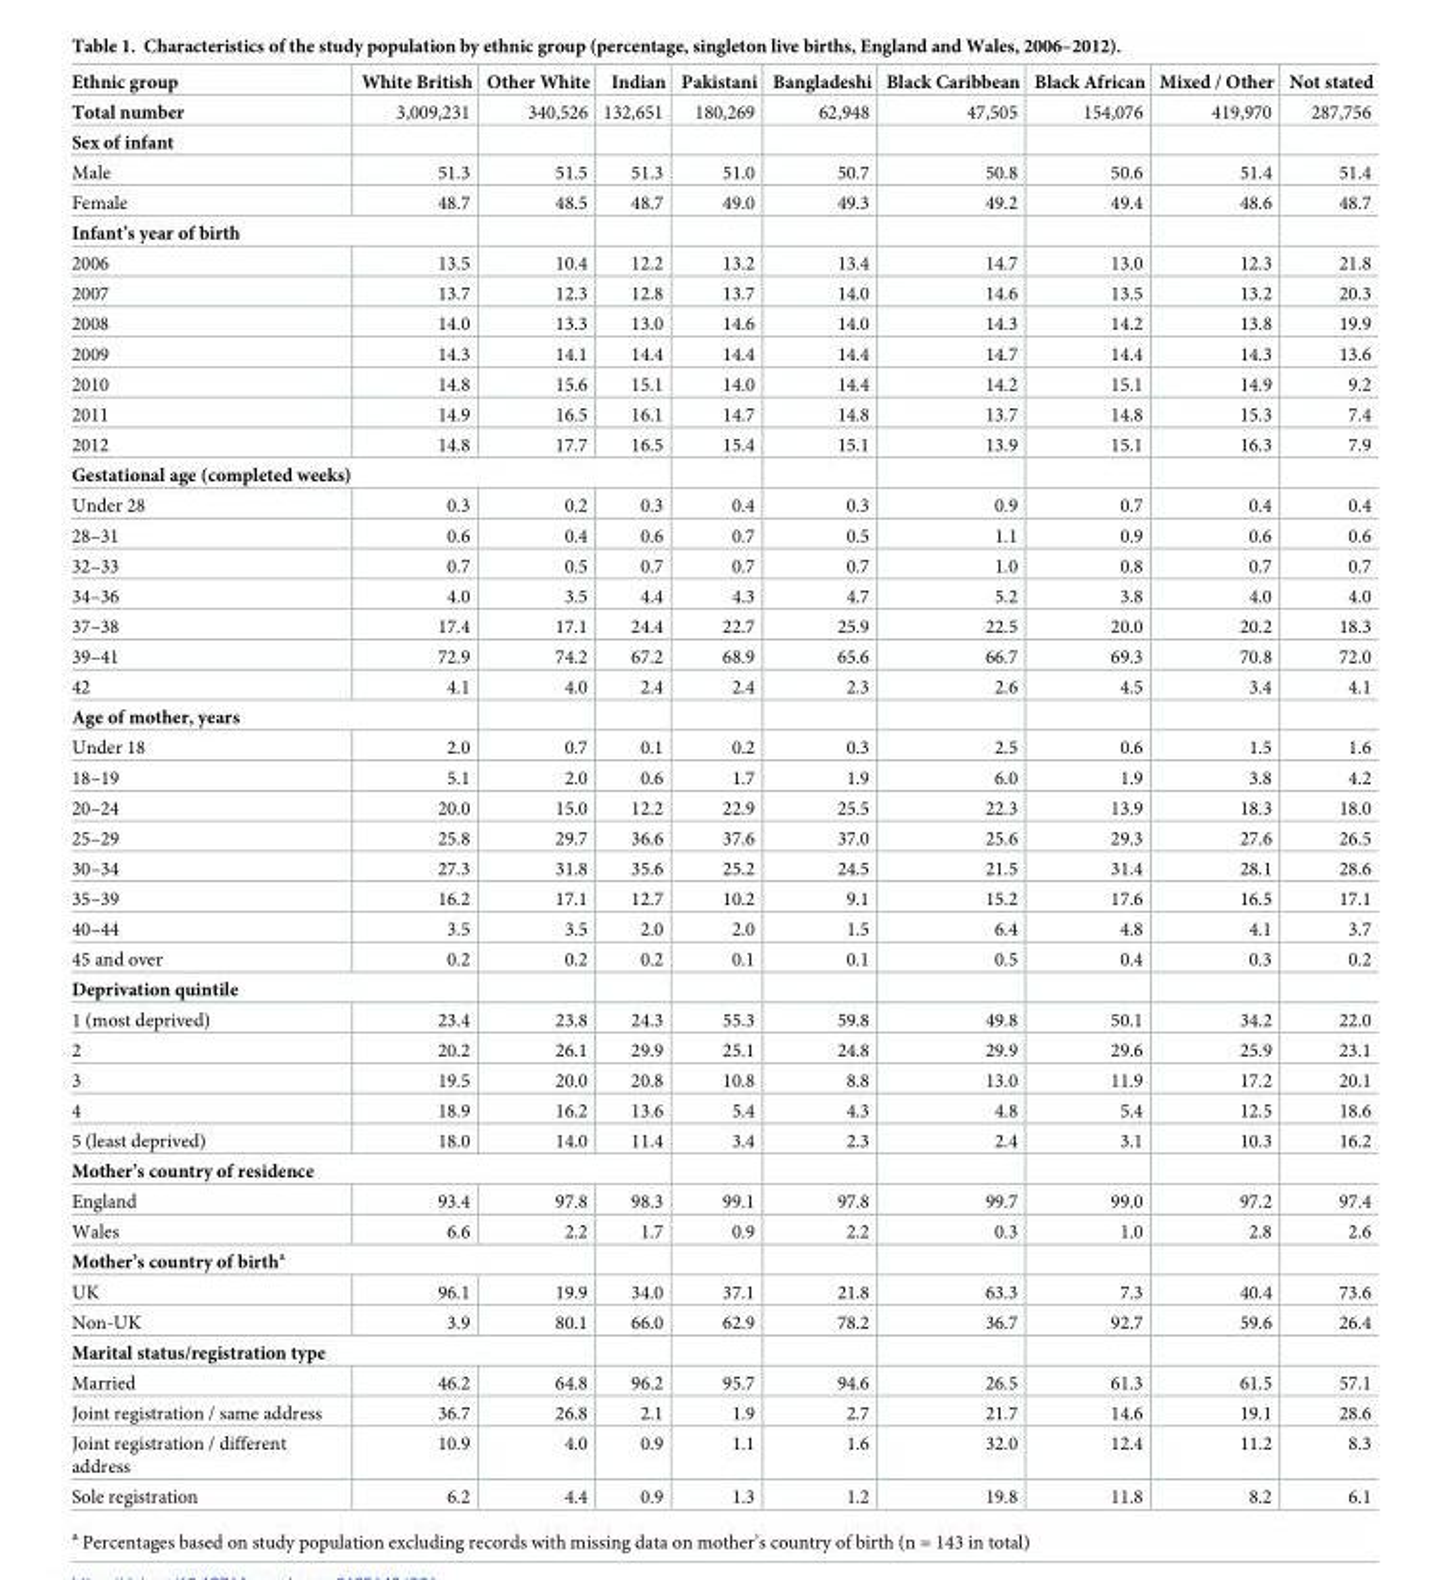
<table><thead><tr><td>Ethnic group</td><td>White British</td><td>Other White</td><td>Indian</td><td>Pakistani</td><td>Bangladeshi</td><td>Black Caribbean</td><td>Black African</td><td>Mixed / Other</td><td>Not stated</td></tr></thead><tbody><tr><td>Total number</td><td>3,009,231</td><td>340,526</td><td>132,651</td><td>180,269</td><td>62,948</td><td>47,505</td><td>154,076</td><td>419,970</td><td>287,756</td></tr><tr><td colspan="10">Sex of infant</td></tr><tr><td>Male</td><td>51.3</td><td>51.5</td><td>51.3</td><td>51.0</td><td>50.7</td><td>50.8</td><td>50.6</td><td>51.4</td><td>51.4</td></tr><tr><td>Female</td><td>48.7</td><td>48.5</td><td>48.7</td><td>49.0</td><td>49.3</td><td>49.2</td><td>49.4</td><td>48.6</td><td>48.7</td></tr><tr><td colspan="10">Infant’s year of birth</td></tr><tr><td>2006</td><td>13.5</td><td>10.4</td><td>12.2</td><td>13.2</td><td>13.4</td><td>14.7</td><td>13.0</td><td>12.3</td><td>21.8</td></tr><tr><td>2007</td><td>13.7</td><td>12.3</td><td>12.8</td><td>13.7</td><td>14.0</td><td>14.6</td><td>13.5</td><td>13.2</td><td>20.3</td></tr><tr><td>2008</td><td>14.0</td><td>13.3</td><td>13.0</td><td>14.6</td><td>14.0</td><td>14.3</td><td>14.2</td><td>13.8</td><td>19.9</td></tr><tr><td>2009</td><td>14.3</td><td>14.1</td><td>14.4</td><td>14.4</td><td>14.4</td><td>14.7</td><td>14.4</td><td>14.3</td><td>13.6</td></tr><tr><td>2010</td><td>14.8</td><td>15.6</td><td>15.1</td><td>14.0</td><td>14.4</td><td>14.2</td><td>15.1</td><td>14.9</td><td>9.2</td></tr><tr><td>2011</td><td>14.9</td><td>16.5</td><td>16.1</td><td>14.7</td><td>14.8</td><td>13.7</td><td>14.8</td><td>15.3</td><td>7.4</td></tr><tr><td>2012</td><td>14.8</td><td>17.7</td><td>16.5</td><td>15.4</td><td>15.1</td><td>13.9</td><td>15.1</td><td>16.3</td><td>7.9</td></tr><tr><td colspan="10">Gestational age (completed weeks)</td></tr><tr><td>Under 28</td><td>0.3</td><td>0.2</td><td>0.3</td><td>0.4</td><td>0.3</td><td>0.9</td><td>0.7</td><td>0.4</td><td>0.4</td></tr><tr><td>28–31</td><td>0.6</td><td>0.4</td><td>0.6</td><td>0.7</td><td>0.5</td><td>1.1</td><td>0.9</td><td>0.6</td><td>0.6</td></tr><tr><td>32–33</td><td>0.7</td><td>0.5</td><td>0.7</td><td>0.7</td><td>0.7</td><td>1.0</td><td>0.8</td><td>0.7</td><td>0.7</td></tr><tr><td>34–36</td><td>4.0</td><td>3.5</td><td>4.4</td><td>4.3</td><td>4.7</td><td>5.2</td><td>3.8</td><td>4.0</td><td>4.0</td></tr><tr><td>37–38</td><td>17.4</td><td>17.1</td><td>24.4</td><td>22.7</td><td>25.9</td><td>22.5</td><td>20.0</td><td>20.2</td><td>18.3</td></tr><tr><td>39–41</td><td>72.9</td><td>74.2</td><td>67.2</td><td>68.9</td><td>65.6</td><td>66.7</td><td>69.3</td><td>70.8</td><td>72.0</td></tr><tr><td>42</td><td>4.1</td><td>4.0</td><td>2.4</td><td>2.4</td><td>2.3</td><td>2.6</td><td>4.5</td><td>3.4</td><td>4.1</td></tr><tr><td colspan="10">Age of mother, years</td></tr><tr><td>Under 18</td><td>2.0</td><td>0.7</td><td>0.1</td><td>0.2</td><td>0.3</td><td>2.5</td><td>0.6</td><td>1.5</td><td>1.6</td></tr><tr><td>18–19</td><td>5.1</td><td>2.0</td><td>0.6</td><td>1.7</td><td>1.9</td><td>6.0</td><td>1.9</td><td>3.8</td><td>4.2</td></tr><tr><td>20–24</td><td>20.0</td><td>15.0</td><td>12.2</td><td>22.9</td><td>25.5</td><td>22.3</td><td>13.9</td><td>18.3</td><td>18.0</td></tr><tr><td>25–29</td><td>25.8</td><td>29.7</td><td>36.6</td><td>37.6</td><td>37.0</td><td>25.6</td><td>29.3</td><td>27.6</td><td>26.5</td></tr><tr><td>30–34</td><td>27.3</td><td>31.8</td><td>35.6</td><td>25.2</td><td>24.5</td><td>21.5</td><td>31.4</td><td>28.1</td><td>28.6</td></tr><tr><td>35–39</td><td>16.2</td><td>17.1</td><td>12.7</td><td>10.2</td><td>9.1</td><td>15.2</td><td>17.6</td><td>16.5</td><td>17.1</td></tr><tr><td>40–44</td><td>3.5</td><td>3.5</td><td>2.0</td><td>2.0</td><td>1.5</td><td>6.4</td><td>4.8</td><td>4.1</td><td>3.7</td></tr><tr><td>45 and over</td><td>0.2</td><td>0.2</td><td>0.2</td><td>0.1</td><td>0.1</td><td>0.5</td><td>0.4</td><td>0.3</td><td>0.2</td></tr><tr><td colspan="10">Deprivation quintile</td></tr><tr><td>1 (most deprived)</td><td>23.4</td><td>23.8</td><td>24.3</td><td>55.3</td><td>59.8</td><td>49.8</td><td>50.1</td><td>34.2</td><td>22.0</td></tr><tr><td>2</td><td>20.2</td><td>26.1</td><td>29.9</td><td>25.1</td><td>24.8</td><td>29.9</td><td>29.6</td><td>25.9</td><td>23.1</td></tr><tr><td>3</td><td>19.5</td><td>20.0</td><td>20.8</td><td>10.8</td><td>8.8</td><td>13.0</td><td>11.9</td><td>17.2</td><td>20.1</td></tr><tr><td>4</td><td>18.9</td><td>16.2</td><td>13.6</td><td>5.4</td><td>4.3</td><td>4.8</td><td>5.4</td><td>12.5</td><td>18.6</td></tr><tr><td>5 (least deprived)</td><td>18.0</td><td>14.0</td><td>11.4</td><td>3.4</td><td>2.3</td><td>2.4</td><td>3.1</td><td>10.3</td><td>16.2</td></tr><tr><td colspan="10">Mother’s country of residence</td></tr><tr><td>England</td><td>93.4</td><td>97.8</td><td>98.3</td><td>99.1</td><td>97.8</td><td>99.7</td><td>99.0</td><td>97.2</td><td>97.4</td></tr><tr><td>Wales</td><td>6.6</td><td>2.2</td><td>1.7</td><td>0.9</td><td>2.2</td><td>0.3</td><td>1.0</td><td>2.8</td><td>2.6</td></tr><tr><td colspan="10">Mother’s country of birth<sup>a</sup></td></tr><tr><td>UK</td><td>96.1</td><td>19.9</td><td>34.0</td><td>37.1</td><td>21.8</td><td>63.3</td><td>7.3</td><td>40.4</td><td>73.6</td></tr><tr><td>Non-UK</td><td>3.9</td><td>80.1</td><td>66.0</td><td>62.9</td><td>78.2</td><td>36.7</td><td>92.7</td><td>59.6</td><td>26.4</td></tr><tr><td colspan="10">Marital status/registration type</td></tr><tr><td>Married</td><td>46.2</td><td>64.8</td><td>96.2</td><td>95.7</td><td>94.6</td><td>26.5</td><td>61.3</td><td>61.5</td><td>57.1</td></tr><tr><td>Joint registration / same address</td><td>36.7</td><td>26.8</td><td>2.1</td><td>1.9</td><td>2.7</td><td>21.7</td><td>14.6</td><td>19.1</td><td>28.6</td></tr><tr><td>Joint registration / different address</td><td>10.9</td><td>4.0</td><td>0.9</td><td>1.1</td><td>1.6</td><td>32.0</td><td>12.4</td><td>11.2</td><td>8.3</td></tr><tr><td>Sole registration</td><td>6.2</td><td>4.4</td><td>0.9</td><td>1.3</td><td>1.2</td><td>19.8</td><td>11.8</td><td>8.2</td><td>6.1</td></tr></tbody></table>